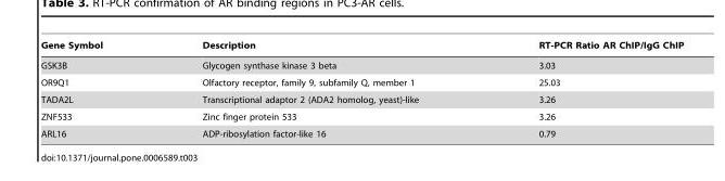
<table><thead><tr><td>Gene Symbol</td><td>Description</td><td>RT-PCR Ratio AR ChIP/IgG ChIP</td></tr></thead><tbody><tr><td>GSK3B</td><td>Glycogen synthase kinase 3 beta</td><td>3.03</td></tr><tr><td>OR9Q1</td><td>Olfactory receptor, family 9, subfamily Q, member 1</td><td>25.03</td></tr><tr><td>TADA2L</td><td>Transcriptional adaptor 2 (ADA2 homolog, yeast)-like</td><td>3.26</td></tr><tr><td>ZNF533</td><td>Zinc finger protein 533</td><td>3.26</td></tr><tr><td>ARL16</td><td>ADP-ribosylation factor-like 16</td><td>0.79</td></tr></tbody></table>